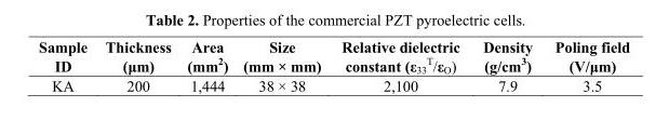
<table><thead><tr><td>Sample ID</td><td>Thickness (μm)</td><td>Area (mm<sup>2</sup>)</td><td>Size (mm × mm)</td><td>Relative dielectric constant (ε<sub>33</sub> <sup>T</sup>/ε<sub>O</sub>)</td><td>Density (g/cm<sup>3</sup>)</td><td>Poling field (V/μm)</td></tr></thead><tbody><tr><td>KA</td><td>200</td><td>1,444</td><td>38 × 38</td><td>2,100</td><td>7.9</td><td>3.5</td></tr></tbody></table>